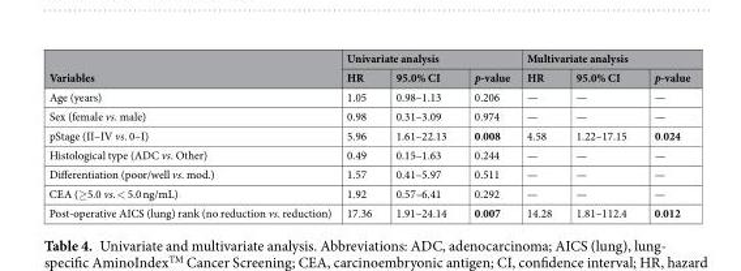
<table><thead><tr><td rowspan="2">Variables</td><td colspan="3">Univariate analysis</td><td colspan="3">Multivariate analysis</td></tr><tr><td>HR</td><td>95.0% CI</td><td>p-value</td><td>HR</td><td>95.0% CI</td><td>p-value</td></tr></thead><tbody><tr><td>Age (years)</td><td>1.05</td><td>0.98–1.13</td><td>0.206</td><td>—</td><td>—</td><td>—</td></tr><tr><td>Sex (female vs. male)</td><td>0.98</td><td>0.31–3.09</td><td>0.974</td><td>—</td><td>—</td><td>—</td></tr><tr><td>pStage (II–IV vs. 0–I)</td><td>5.96</td><td>1.61–22.13</td><td>0.008</td><td>4.58</td><td>1.22–17.15</td><td>0.024</td></tr><tr><td>Histological type (ADC vs. Other)</td><td>0.49</td><td>0.15–1.63</td><td>0.244</td><td>—</td><td>—</td><td>—</td></tr><tr><td>Differentiation (poor/well vs. mod.)</td><td>1.57</td><td>0.41–5.97</td><td>0.511</td><td>—</td><td>—</td><td>—</td></tr><tr><td>CEA (≥5.0 vs. &lt; 5.0 ng/mL)</td><td>1.92</td><td>0.57–6.41</td><td>0.292</td><td>—</td><td>—</td><td>—</td></tr><tr><td>Post-operative AICS (lung) rank (no reduction vs. reduction)</td><td>17.36</td><td>1.91–24.14</td><td>0.007</td><td>14.28</td><td>1.81–112.4</td><td>0.012</td></tr></tbody></table>